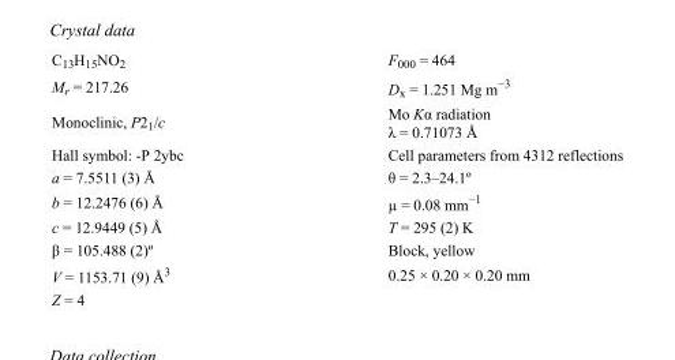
<table><tbody><tr><td>C<sub>13</sub>H<sub>15</sub>NO<sub>2</sub></td><td>F000 = 464</td></tr><tr><td>M<sub>r</sub> = 217.26</td><td>D<sub>x</sub> = 1.251 Mg m<sup>−3</sup></td></tr><tr><td>Monoclinic, P2<sub>1</sub>/c</td><td>Mo Kα radiation λ = 0.71073 Å</td></tr><tr><td>Hall symbol: -P 2ybc</td><td>Cell parameters from 4312 reflections</td></tr><tr><td>a = 7.5511 (3) Å</td><td>θ = 2.3–24.1º</td></tr><tr><td>b = 12.2476 (6) Å</td><td>µ = 0.08 mm<sup>−1</sup></td></tr><tr><td>c = 12.9449 (5) Å</td><td>T = 295 (2) K</td></tr><tr><td>β = 105.488 (2)º</td><td>Block, yellow</td></tr><tr><td>V = 1153.71 (9) Å<sup>3</sup></td><td>0.25 × 0.20 × 0.20 mm</td></tr><tr><td>Z = 4</td><td></td></tr></tbody></table>